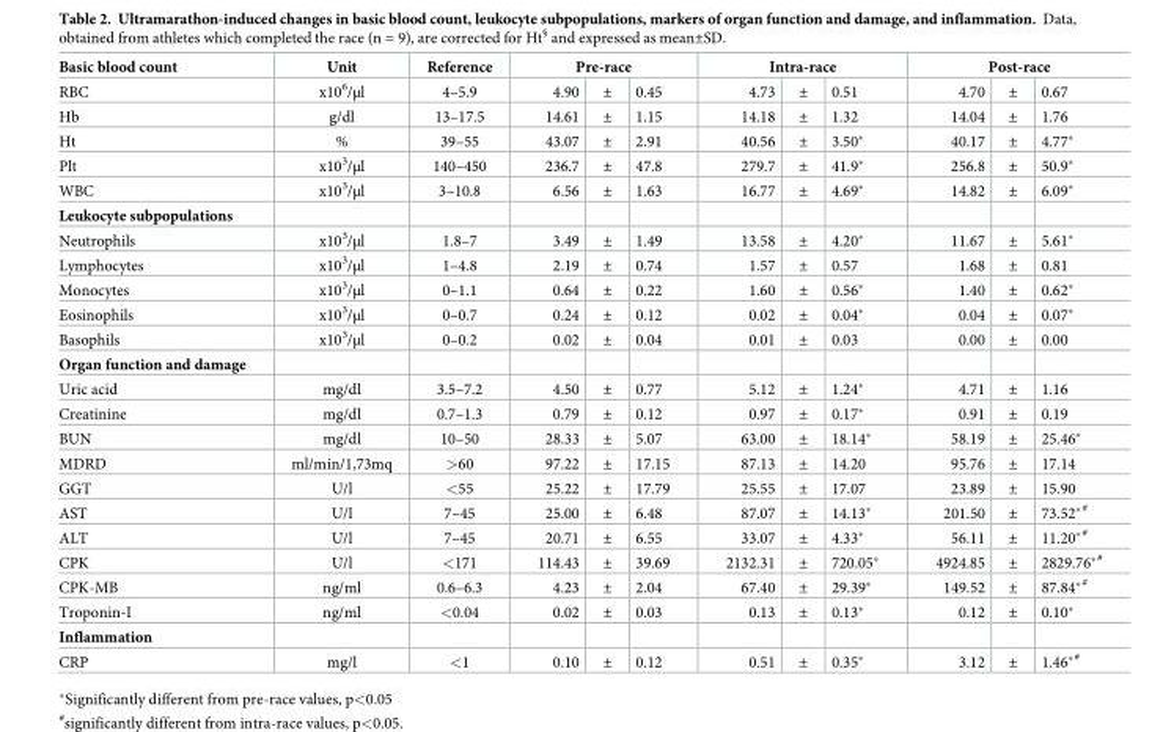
<table><thead><tr><td rowspan="2">Basic blood count RBC</td><td rowspan="2">Unit x10<sup>6</sup>/μl</td><td rowspan="2">Reference 4–5.9</td><td colspan="3">Pre-race</td><td colspan="3">Intra-race</td><td colspan="3">Post-race</td></tr><tr><td>4.90</td><td>±</td><td>0.45</td><td>4.73</td><td>±</td><td>0.51</td><td>4.70</td><td>±</td><td>0.67</td></tr></thead><tbody><tr><td>Hb</td><td>g/dl</td><td>13–17.5</td><td>14.61</td><td>±</td><td>1.15</td><td>14.18</td><td>±</td><td>1.32</td><td>14.04</td><td>±</td><td>1.76</td></tr><tr><td>Ht</td><td>%</td><td>39–55</td><td>43.07</td><td>±</td><td>2.91</td><td>40.56</td><td>±</td><td>3.50*</td><td>40.17</td><td>±</td><td>4.77*</td></tr><tr><td>Plt</td><td>x10<sup>3</sup>/μl</td><td>140–450</td><td>236.7</td><td>±</td><td>47.8</td><td>279.7</td><td>±</td><td>41.9*</td><td>256.8</td><td>±</td><td>50.9*</td></tr><tr><td>WBC</td><td>x10<sup>3</sup>/μl</td><td>3–10.8</td><td>6.56</td><td>±</td><td>1.63</td><td>16.77</td><td>±</td><td>4.69*</td><td>14.82</td><td>±</td><td>6.09*</td></tr><tr><td colspan="12">Leukocyte subpopulations</td></tr><tr><td>Neutrophils</td><td>x10<sup>3</sup>/μl</td><td>1.8–7</td><td>3.49</td><td>±</td><td>1.49</td><td>13.58</td><td>±</td><td>4.20*</td><td>11.67</td><td>±</td><td>5.61*</td></tr><tr><td>Lymphocytes</td><td>x10<sup>3</sup>/μl</td><td>1–4.8</td><td>2.19</td><td>±</td><td>0.74</td><td>1.57</td><td>±</td><td>0.57</td><td>1.68</td><td>±</td><td>0.81</td></tr><tr><td>Monocytes</td><td>x10<sup>3</sup>/μl</td><td>0–1.1</td><td>0.64</td><td>±</td><td>0.22</td><td>1.60</td><td>±</td><td>0.56*</td><td>1.40</td><td>±</td><td>0.62*</td></tr><tr><td>Eosinophils</td><td>x10<sup>3</sup>/μl</td><td>0–0.7</td><td>0.24</td><td>±</td><td>0.12</td><td>0.02</td><td>±</td><td>0.04*</td><td>0.04</td><td>±</td><td>0.07*</td></tr><tr><td>Basophils</td><td>x10<sup>3</sup>/μl</td><td>0–0.2</td><td>0.02</td><td>±</td><td>0.04</td><td>0.01</td><td>±</td><td>0.03</td><td>0.00</td><td>±</td><td>0.00</td></tr><tr><td colspan="12">Organ function and damage</td></tr><tr><td>Uric acid</td><td>mg/dl</td><td>3.5–7.2</td><td>4.50</td><td>±</td><td>0.77</td><td>5.12</td><td>±</td><td>1.24*</td><td>4.71</td><td>±</td><td>1.16</td></tr><tr><td>Creatinine</td><td>mg/dl</td><td>0.7–1.3</td><td>0.79</td><td>±</td><td>0.12</td><td>0.97</td><td>±</td><td>0.17*</td><td>0.91</td><td>±</td><td>0.19</td></tr><tr><td>BUN</td><td>mg/dl</td><td>10–50</td><td>28.33</td><td>±</td><td>5.07</td><td>63.00</td><td>±</td><td>18.14*</td><td>58.19</td><td>±</td><td>25.46*</td></tr><tr><td>MDRD</td><td>ml/min/1,73mq</td><td>&gt;60</td><td>97.22</td><td>±</td><td>17.15</td><td>87.13</td><td>±</td><td>14.20</td><td>95.76</td><td>±</td><td>17.14</td></tr><tr><td>GGT</td><td>U/l</td><td>&lt;55</td><td>25.22</td><td>±</td><td>17.79</td><td>25.55</td><td>±</td><td>17.07</td><td>23.89</td><td>±</td><td>15.90</td></tr><tr><td>AST</td><td>U/l</td><td>7–45</td><td>25.00</td><td>±</td><td>6.48</td><td>87.07</td><td>±</td><td>14.13*</td><td>201.50</td><td>±</td><td>73.52*<sup>#</sup></td></tr><tr><td>ALT</td><td>U/l</td><td>7–45</td><td>20.71</td><td>±</td><td>6.55</td><td>33.07</td><td>±</td><td>4.33*</td><td>56.11</td><td>±</td><td>11.20*<sup>#</sup></td></tr><tr><td>CPK</td><td>U/l</td><td>&lt;171</td><td>114.43</td><td>±</td><td>39.69</td><td>2132.31</td><td>±</td><td>720.05*</td><td>4924.85</td><td>±</td><td>2829.76*<sup>#</sup></td></tr><tr><td>CPK-MB</td><td>ng/ml</td><td>0.6–6.3</td><td>4.23</td><td>±</td><td>2.04</td><td>67.40</td><td>±</td><td>29.39*</td><td>149.52</td><td>±</td><td>87.84*<sup>#</sup></td></tr><tr><td>Troponin-I</td><td>ng/ml</td><td>&lt;0.04</td><td>0.02</td><td>±</td><td>0.03</td><td>0.13</td><td>±</td><td>0.13*</td><td>0.12</td><td>±</td><td>0.10*</td></tr><tr><td colspan="12">Inflammation</td></tr><tr><td>CRP</td><td>mg/l</td><td>&lt;1</td><td>0.10</td><td>±</td><td>0.12</td><td>0.51</td><td>±</td><td>0.35*</td><td>3.12</td><td>±</td><td>1.46*<sup>#</sup></td></tr></tbody></table>